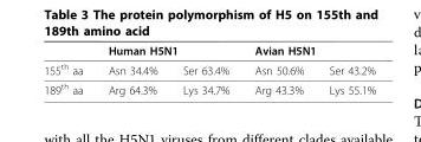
<table><thead><tr><td rowspan="2">155<sup>th</sup> aa</td><td colspan="2">Human H5N1</td><td colspan="2">Avian H5N1</td></tr><tr><td>Asn 34.4%</td><td>Ser 63.4%</td><td>Asn 50.6%</td><td>Ser 43.2%</td></tr></thead><tbody><tr><td>189<sup>th</sup> aa</td><td>Arg 64.3%</td><td>Lys 34.7%</td><td>Arg 43.3%</td><td>Lys 55.1%</td></tr></tbody></table>